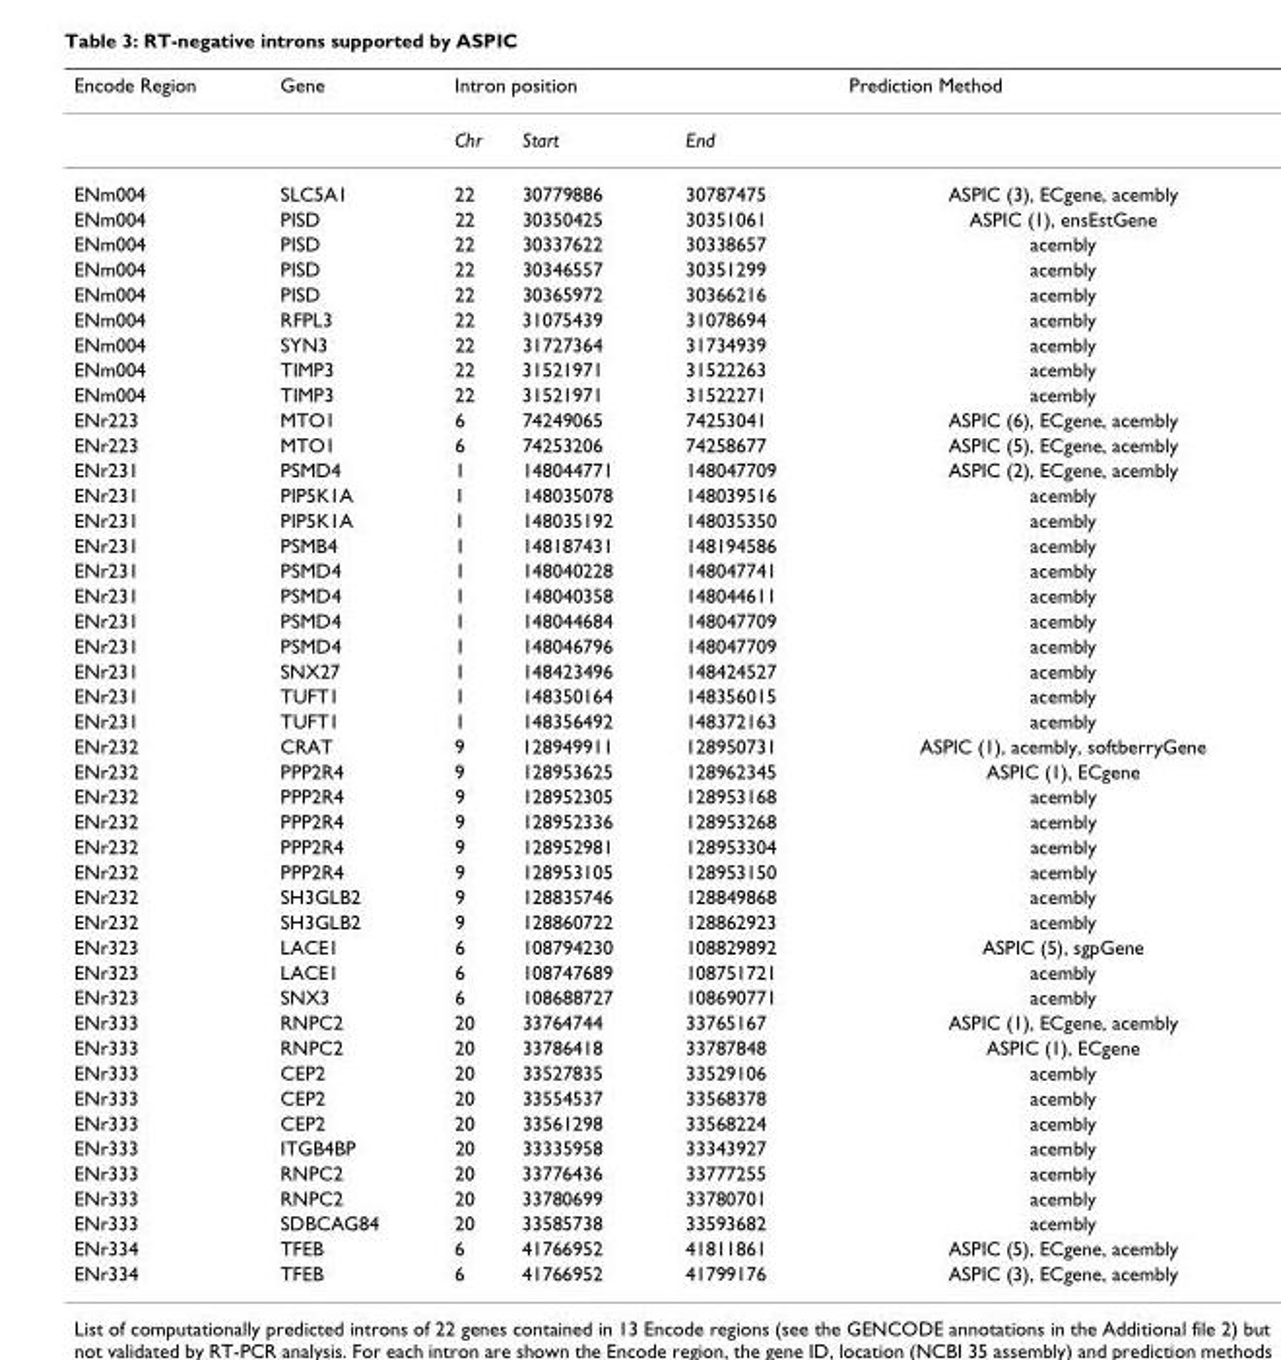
<table><thead><tr><td rowspan="2">Encode Region</td><td rowspan="2">Gene</td><td colspan="3">Intron position</td><td rowspan="2">Prediction Method</td></tr><tr><td>Chr</td><td>Start</td><td>End</td></tr></thead><tbody><tr><td>ENm004</td><td>SLC5A1</td><td>22</td><td>30779886</td><td>30787475</td><td>ASPIC (3), ECgene, acembly</td></tr><tr><td>ENm004</td><td>PISD</td><td>22</td><td>30350425</td><td>30351061</td><td>ASPIC (1), ensEstGene</td></tr><tr><td>ENm004</td><td>PISD</td><td>22</td><td>30337622</td><td>30338657</td><td>acembly</td></tr><tr><td>ENm004</td><td>PISD</td><td>22</td><td>30346557</td><td>30351299</td><td>acembly</td></tr><tr><td>ENm004</td><td>PISD</td><td>22</td><td>30365972</td><td>30366216</td><td>acembly</td></tr><tr><td>ENm004</td><td>RFPL3</td><td>22</td><td>31075439</td><td>31078694</td><td>acembly</td></tr><tr><td>ENm004</td><td>SYN3</td><td>22</td><td>31727364</td><td>31734939</td><td>acembly</td></tr><tr><td>ENm004</td><td>TIMP3</td><td>22</td><td>31521971</td><td>31522263</td><td>acembly</td></tr><tr><td>ENm004</td><td>TIMP3</td><td>22</td><td>31521971</td><td>31522271</td><td>acembly</td></tr><tr><td>ENr223</td><td>MTO1</td><td>6</td><td>74249065</td><td>74253041</td><td>ASPIC (6), ECgene, acembly</td></tr><tr><td>ENr223</td><td>MTO1</td><td>6</td><td>74253206</td><td>74258677</td><td>ASPIC (5), ECgene, acembly</td></tr><tr><td>ENr231</td><td>PSMD4</td><td>1</td><td>148044771</td><td>148047709</td><td>ASPIC (2), ECgene, acembly</td></tr><tr><td>ENr231</td><td>PIP5K1A</td><td>1</td><td>148035078</td><td>148039516</td><td>acembly</td></tr><tr><td>ENr231</td><td>PIP5K1A</td><td>1</td><td>148035192</td><td>148035350</td><td>acembly</td></tr><tr><td>ENr231</td><td>PSMB4</td><td>1</td><td>148187431</td><td>148194586</td><td>acembly</td></tr><tr><td>ENr231</td><td>PSMD4</td><td>1</td><td>148040228</td><td>148047741</td><td>acembly</td></tr><tr><td>ENr231</td><td>PSMD4</td><td>1</td><td>148040358</td><td>148044611</td><td>acembly</td></tr><tr><td>ENr231</td><td>PSMD4</td><td>1</td><td>148044684</td><td>148047709</td><td>acembly</td></tr><tr><td>ENr231</td><td>PSMD4</td><td>1</td><td>148046796</td><td>148047709</td><td>acembly</td></tr><tr><td>ENr231</td><td>SNX27</td><td>1</td><td>148423496</td><td>148424527</td><td>acembly</td></tr><tr><td>ENr231</td><td>TUFT1</td><td>1</td><td>148350164</td><td>148356015</td><td>acembly</td></tr><tr><td>ENr231</td><td>TUFT1</td><td>1</td><td>148356492</td><td>148372163</td><td>acembly</td></tr><tr><td>ENr232</td><td>CRAT</td><td>9</td><td>128949911</td><td>128950731</td><td>ASPIC (1), acembly, softberryGene</td></tr><tr><td>ENr232</td><td>PPP2R4</td><td>9</td><td>128953625</td><td>128962345</td><td>ASPIC (1), ECgene</td></tr><tr><td>ENr232</td><td>PPP2R4</td><td>9</td><td>128952305</td><td>128953168</td><td>acembly</td></tr><tr><td>ENr232</td><td>PPP2R4</td><td>9</td><td>128952336</td><td>128953268</td><td>acembly</td></tr><tr><td>ENr232</td><td>PPP2R4</td><td>9</td><td>128952981</td><td>128953304</td><td>acembly</td></tr><tr><td>ENr232</td><td>PPP2R4</td><td>9</td><td>128953105</td><td>128953150</td><td>acembly</td></tr><tr><td>ENr232</td><td>SH3GLB2</td><td>9</td><td>128835746</td><td>128849868</td><td>acembly</td></tr><tr><td>ENr232</td><td>SH3GLB2</td><td>9</td><td>128860722</td><td>128862923</td><td>acembly</td></tr><tr><td>ENr323</td><td>LACE1</td><td>6</td><td>108794230</td><td>108829892</td><td>ASPIC (5), sgpGene</td></tr><tr><td>ENr323</td><td>LACE1</td><td>6</td><td>108747689</td><td>108751721</td><td>acembly</td></tr><tr><td>ENr323</td><td>SNX3</td><td>6</td><td>108688727</td><td>108690771</td><td>acembly</td></tr><tr><td>ENr333</td><td>RNPC2</td><td>20</td><td>33764744</td><td>33765167</td><td>ASPIC (1), ECgene, acembly</td></tr><tr><td>ENr333</td><td>RNPC2</td><td>20</td><td>33786418</td><td>33787848</td><td>ASPIC (1), ECgene</td></tr><tr><td>ENr333</td><td>CEP2</td><td>20</td><td>33527835</td><td>33529106</td><td>acembly</td></tr><tr><td>ENr333</td><td>CEP2</td><td>20</td><td>33554537</td><td>33568378</td><td>acembly</td></tr><tr><td>ENr333</td><td>CEP2</td><td>20</td><td>33561298</td><td>33568224</td><td>acembly</td></tr><tr><td>ENr333</td><td>ITGB4BP</td><td>20</td><td>33335958</td><td>33343927</td><td>acembly</td></tr><tr><td>ENr333</td><td>RNPC2</td><td>20</td><td>33776436</td><td>33777255</td><td>acembly</td></tr><tr><td>ENr333</td><td>RNPC2</td><td>20</td><td>33780699</td><td>33780701</td><td>acembly</td></tr><tr><td>ENr333</td><td>SDBCAG84</td><td>20</td><td>33585738</td><td>33593682</td><td>acembly</td></tr><tr><td>ENr334</td><td>TFEB</td><td>6</td><td>41766952</td><td>41811861</td><td>ASPIC (5), ECgene, acembly</td></tr><tr><td>ENr334</td><td>TFEB</td><td>6</td><td>41766952</td><td>41799176</td><td>ASPIC (3), ECgene, acembly</td></tr></tbody></table>